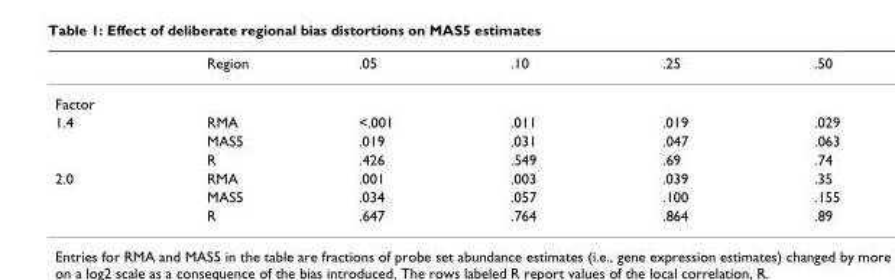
<table><thead><tr><td></td><td>Region</td><td>.05</td><td>.10</td><td>.25</td><td>.50</td></tr></thead><tbody><tr><td colspan="6">Factor</td></tr><tr><td rowspan="3">1.4</td><td>RMA</td><td>&lt;.001</td><td>.011</td><td>.019</td><td>.029</td></tr><tr><td>MAS5</td><td>.019</td><td>.031</td><td>.047</td><td>.063</td></tr><tr><td>R</td><td>.426</td><td>.549</td><td>.69</td><td>.74</td></tr><tr><td rowspan="3">2.0</td><td>RMA</td><td>.001</td><td>.003</td><td>.039</td><td>.35</td></tr><tr><td>MAS5</td><td>.034</td><td>.057</td><td>.100</td><td>.155</td></tr><tr><td>R</td><td>.647</td><td>.764</td><td>.864</td><td>.89</td></tr></tbody></table>